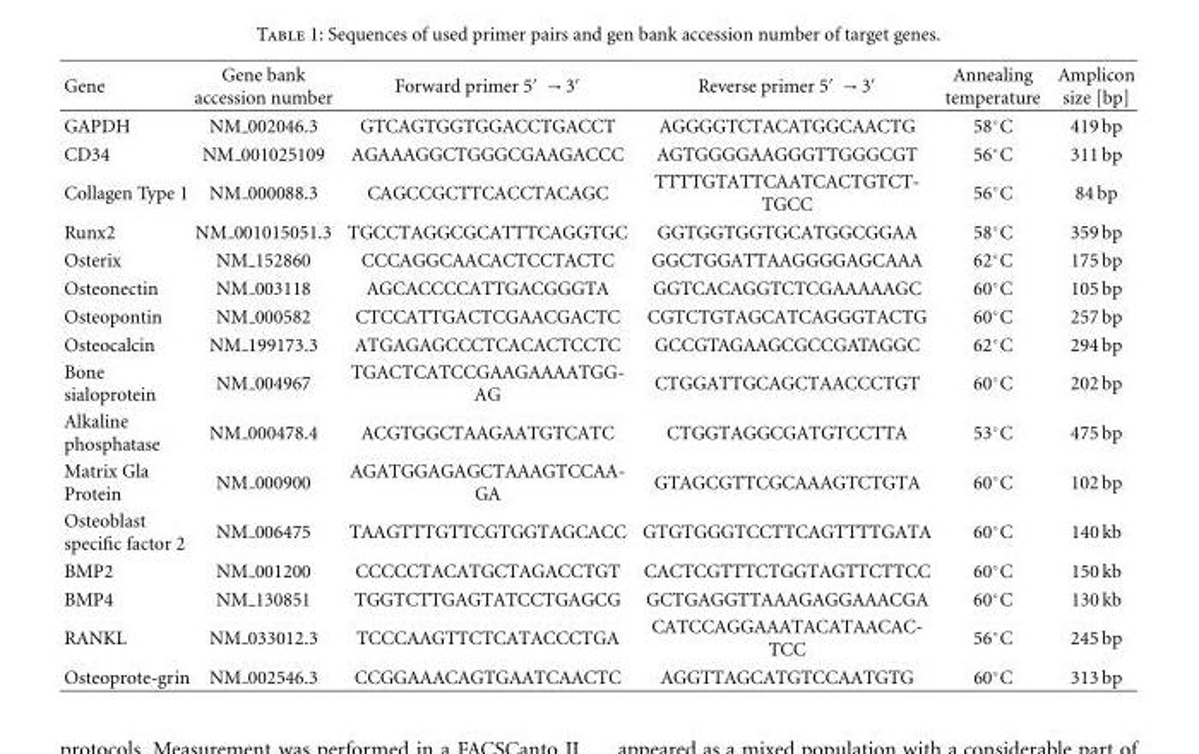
<table><thead><tr><td>Gene</td><td>Gene bank accession number</td><td>Forward primer 5′ →3′</td><td>Reverse primer 5′ →3′</td><td>Annealing temperature</td><td>Amplicon size [bp]</td></tr></thead><tbody><tr><td>GAPDH</td><td>NM 002046.3</td><td>GTCAGTGGTGGACCTGACCT</td><td>AGGGGTCTACATGGCAACTG</td><td>58◦C</td><td>419 bp</td></tr><tr><td>CD34</td><td>NM 001025109</td><td>AGAAAGGCTGGGCGAAGACCC</td><td>AGTGGGGAAGGGTTGGGCGT</td><td>56◦C</td><td>311 bp</td></tr><tr><td>Collagen Type 1</td><td>NM 000088.3</td><td>CAGCCGCTTCACCTACAGC</td><td>TTTTGTATTCAATCACTGTCT- TGCC</td><td>56◦C</td><td>84 bp</td></tr><tr><td>Runx2</td><td>NM 001015051.3</td><td>TGCCTAGGCGCATTTCAGGTGC</td><td>GGTGGTGGTGCATGGCGGAA</td><td>58◦C</td><td>359 bp</td></tr><tr><td>Osterix</td><td>NM 152860</td><td>CCCAGGCAACACTCCTACTC</td><td>GGCTGGATTAAGGGGAGCAAA</td><td>62◦C</td><td>175 bp</td></tr><tr><td>Osteonectin</td><td>NM 003118</td><td>AGCACCCCATTGACGGGTA</td><td>GGTCACAGGTCTCGAAAAAGC</td><td>60◦C</td><td>105 bp</td></tr><tr><td>Osteopontin</td><td>NM 000582</td><td>CTCCATTGACTCGAACGACTC</td><td>CGTCTGTAGCATCAGGGTACTG</td><td>60◦C</td><td>257 bp</td></tr><tr><td>Osteocalcin</td><td>NM 199173.3</td><td>ATGAGAGCCCTCACACTCCTC</td><td>GCCGTAGAAGCGCCGATAGGC</td><td>62◦C</td><td>294 bp</td></tr><tr><td>Bone sialoprotein</td><td>NM 004967</td><td>TGACTCATCCGAAGAAAATGG- AG</td><td>CTGGATTGCAGCTAACCCTGT</td><td>60◦C</td><td>202 bp</td></tr><tr><td>Alkaline phosphatase</td><td>NM 000478.4</td><td>ACGTGGCTAAGAATGTCATC</td><td>CTGGTAGGCGATGTCCTTA</td><td>53◦C</td><td>475 bp</td></tr><tr><td>Matrix Gla Protein</td><td>NM 000900</td><td>AGATGGAGAGCTAAAGTCCAA- GA</td><td>GTAGCGTTCGCAAAGTCTGTA</td><td>60◦C</td><td>102 bp</td></tr><tr><td>Osteoblast specific factor 2</td><td>NM 006475</td><td>TAAGTTTGTTCGTGGTAGCACC</td><td>GTGTGGGTCCTTCAGTTTTGATA</td><td>60◦C</td><td>140 kb</td></tr><tr><td>BMP2</td><td>NM 001200</td><td>CCCCCTACATGCTAGACCTGT</td><td>CACTCGTTTCTGGTAGTTCTTCC</td><td>60◦C</td><td>150 kb</td></tr><tr><td>BMP4</td><td>NM 130851</td><td>TGGTCTTGAGTATCCTGAGCG</td><td>GCTGAGGTTAAAGAGGAAACGA</td><td>60◦C</td><td>130 kb</td></tr><tr><td>RANKL</td><td>NM 033012.3</td><td>TCCCAAGTTCTCATACCCTGA</td><td>CATCCAGGAAATACATAACAC- TCC</td><td>56◦C</td><td>245 bp</td></tr><tr><td>Osteoprote-grin</td><td>NM 002546.3</td><td>CCGGAAACAGTGAATCAACTC</td><td>AGGTTAGCATGTCCAATGTG</td><td>60◦C</td><td>313 bp</td></tr></tbody></table>